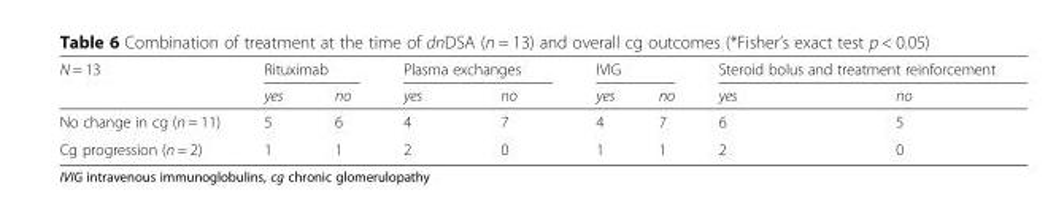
<table><thead><tr><td rowspan="2">N = 13</td><td colspan="2">Rituximab</td><td colspan="2">Plasma exchanges</td><td colspan="2">IVIG</td><td colspan="2">Steroid bolus and treatment reinforcement</td></tr><tr><td>yes</td><td>no</td><td>yes</td><td>no</td><td>yes</td><td>no</td><td>yes</td><td>no</td></tr></thead><tbody><tr><td>No change in cg (n = 11)</td><td>5</td><td>6</td><td>4</td><td>7</td><td>4</td><td>7</td><td>6</td><td>5</td></tr><tr><td>Cg progression (n = 2)</td><td>1</td><td>1</td><td>2</td><td>0</td><td>1</td><td>1</td><td>2</td><td>0</td></tr></tbody></table>